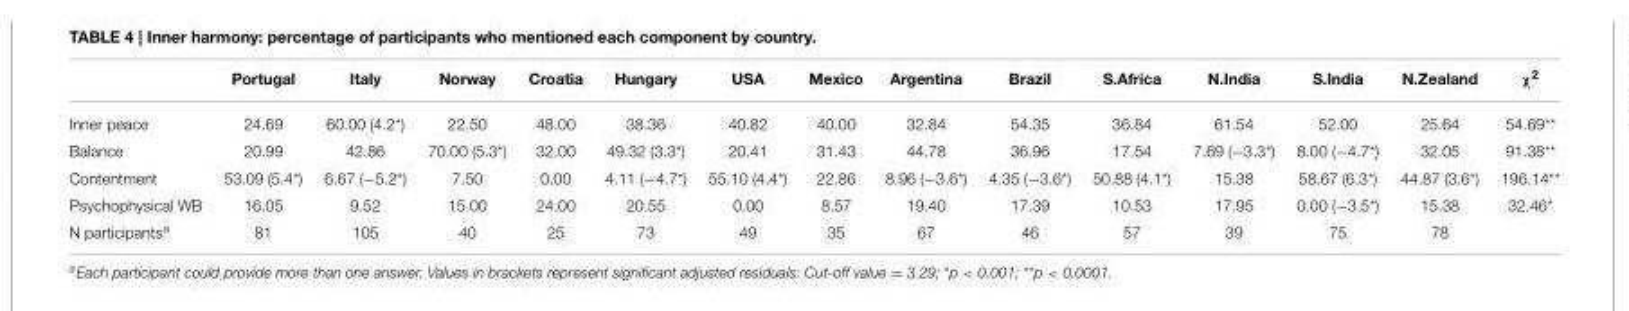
<table><thead><tr><td></td><td>Portugal</td><td>Italy</td><td>Norway</td><td>Croatia</td><td>Hungary</td><td>USA</td><td>Mexico</td><td>Argentina</td><td>Brazil</td><td>S.Africa</td><td>N.India</td><td>S.India</td><td>N.Zealand</td><td>χ<sup>2</sup></td></tr></thead><tbody><tr><td>Inner peace</td><td>24.69</td><td>60.00 (4.2*)</td><td>22.50</td><td>48.00</td><td>38.36</td><td>40.82</td><td>40.00</td><td>32.84</td><td>54.35</td><td>36.84</td><td>61.54</td><td>52.00</td><td>25.64</td><td>54.69**</td></tr><tr><td>Balance</td><td>20.99</td><td>42.86</td><td>70.00 (5.3*)</td><td>32.00</td><td>49.32 (3.3*)</td><td>20.41</td><td>31.43</td><td>44.78</td><td>36.96</td><td>17.54</td><td>7.69 (−3.3*)</td><td>8.00 (−4.7*)</td><td>32.05</td><td>91.38**</td></tr><tr><td>Contentment</td><td>53.09 (5.4*)</td><td>6.67 (−5.2*)</td><td>7.50</td><td>0.00</td><td>4.11 (−4.7*)</td><td>55.10 (4.4*)</td><td>22.86</td><td>8.96 (−3.6*)</td><td>4.35 (−3.6*)</td><td>50.88 (4.1*)</td><td>15.38</td><td>58.67 (6.3*)</td><td>44.87 (3.6*)</td><td>196.14**</td></tr><tr><td>Psychophysical WB</td><td>16.05</td><td>9.52</td><td>15.00</td><td>24.00</td><td>20.55</td><td>0.00</td><td>8.57</td><td>19.40</td><td>17.39</td><td>10.53</td><td>17.95</td><td>0.00 (−3.5*)</td><td>15.38</td><td>32.46*</td></tr><tr><td>N participants<sup>a</sup></td><td>81</td><td>105</td><td>40</td><td>25</td><td>73</td><td>49</td><td>35</td><td>67</td><td>46</td><td>57</td><td>39</td><td>75</td><td>78</td><td></td></tr></tbody></table>